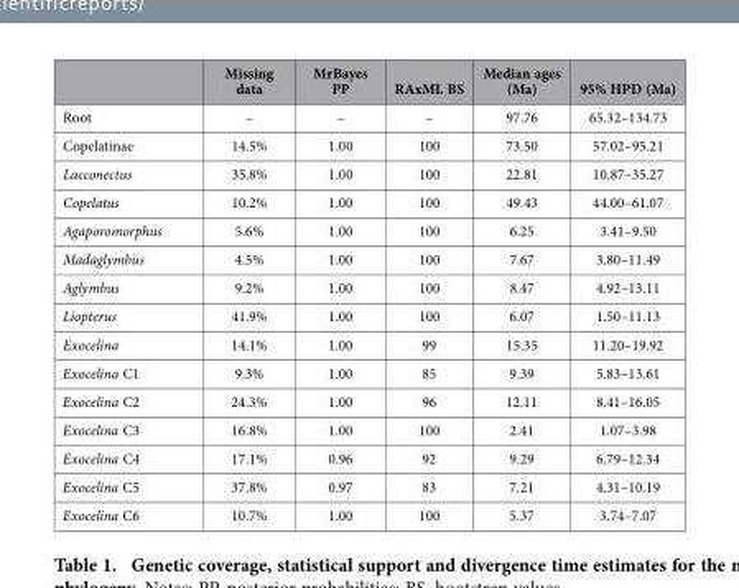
<table><thead><tr><td></td><td>Missing data</td><td>MrBayes PP</td><td>RAxML BS</td><td>Median ages (Ma)</td><td>95% HPD (Ma)</td></tr></thead><tbody><tr><td>Root</td><td>–</td><td>–</td><td>–</td><td>97.76</td><td>65.32–134.73</td></tr><tr><td>Copelatinae</td><td>14.5%</td><td>1.00</td><td>100</td><td>73.50</td><td>57.02–95.21</td></tr><tr><td>Lacconectus</td><td>35.8%</td><td>1.00</td><td>100</td><td>22.81</td><td>10.87–35.27</td></tr><tr><td>Copelatus</td><td>10.2%</td><td>1.00</td><td>100</td><td>49.43</td><td>44.00–61.07</td></tr><tr><td>Agaporomorphus</td><td>5.6%</td><td>1.00</td><td>100</td><td>6.25</td><td>3.41–9.50</td></tr><tr><td>Madaglymbus</td><td>4.5%</td><td>1.00</td><td>100</td><td>7.67</td><td>3.80–11.49</td></tr><tr><td>Aglymbus</td><td>9.2%</td><td>1.00</td><td>100</td><td>8.47</td><td>4.92–13.11</td></tr><tr><td>Liopterus</td><td>41.9%</td><td>1.00</td><td>100</td><td>6.07</td><td>1.50–11.13</td></tr><tr><td>Exocelina</td><td>14.1%</td><td>1.00</td><td>99</td><td>15.35</td><td>11.20–19.92</td></tr><tr><td>Exocelina C1</td><td>9.3%</td><td>1.00</td><td>85</td><td>9.39</td><td>5.83–13.61</td></tr><tr><td>Exocelina C2</td><td>24.3%</td><td>1.00</td><td>96</td><td>12.11</td><td>8.41–16.05</td></tr><tr><td>Exocelina C3</td><td>16.8%</td><td>1.00</td><td>100</td><td>2.41</td><td>1.07–3.98</td></tr><tr><td>Exocelina C4</td><td>17.1%</td><td>0.96</td><td>92</td><td>9.29</td><td>6.79–12.34</td></tr><tr><td>Exocelina C5</td><td>37.8%</td><td>0.97</td><td>83</td><td>7.21</td><td>4.31–10.19</td></tr><tr><td>Exocelina C6</td><td>10.7%</td><td>1.00</td><td>100</td><td>5.37</td><td>3.74–7.07</td></tr></tbody></table>